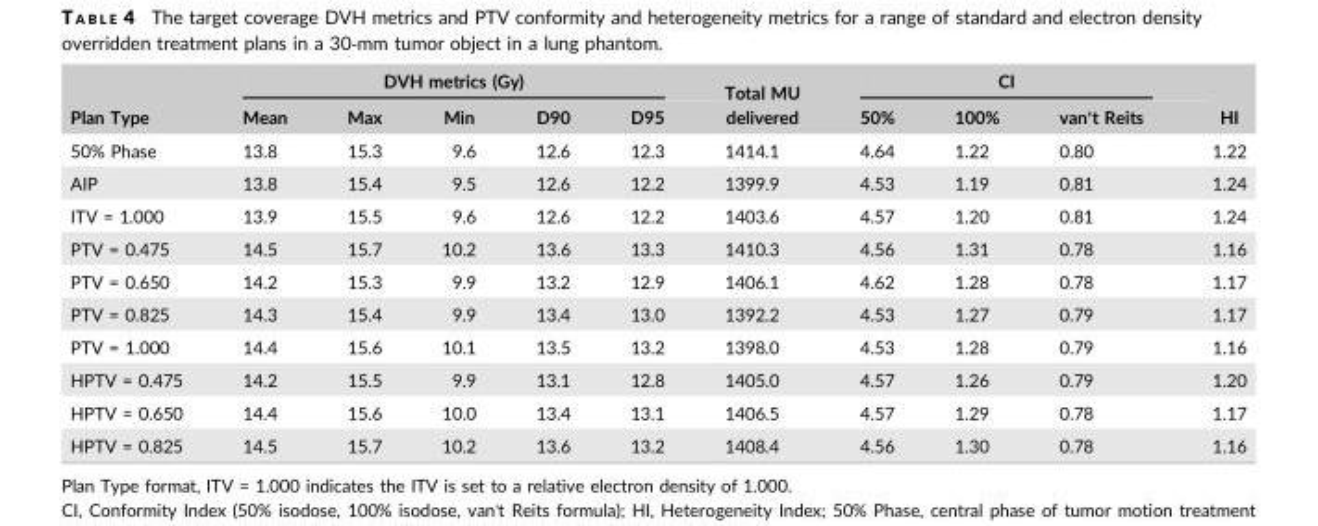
<table><thead><tr><td rowspan="2">Plan Type</td><td colspan="5">DVH metrics (Gy)</td><td rowspan="2">Total MU delivered</td><td colspan="3">CI</td><td rowspan="2">HI</td></tr><tr><td>Mean</td><td>Max</td><td>Min</td><td>D90</td><td>D95</td><td>50%</td><td>100%</td><td>van&#x27;t Reits</td></tr></thead><tbody><tr><td>50% Phase</td><td>13.8</td><td>15.3</td><td>9.6</td><td>12.6</td><td>12.3</td><td>1414.1</td><td>4.64</td><td>1.22</td><td>0.80</td><td>1.22</td></tr><tr><td>AIP</td><td>13.8</td><td>15.4</td><td>9.5</td><td>12.6</td><td>12.2</td><td>1399.9</td><td>4.53</td><td>1.19</td><td>0.81</td><td>1.24</td></tr><tr><td>ITV = 1.000</td><td>13.9</td><td>15.5</td><td>9.6</td><td>12.6</td><td>12.2</td><td>1403.6</td><td>4.57</td><td>1.20</td><td>0.81</td><td>1.24</td></tr><tr><td>PTV = 0.475</td><td>14.5</td><td>15.7</td><td>10.2</td><td>13.6</td><td>13.3</td><td>1410.3</td><td>4.56</td><td>1.31</td><td>0.78</td><td>1.16</td></tr><tr><td>PTV = 0.650</td><td>14.2</td><td>15.3</td><td>9.9</td><td>13.2</td><td>12.9</td><td>1406.1</td><td>4.62</td><td>1.28</td><td>0.78</td><td>1.17</td></tr><tr><td>PTV = 0.825</td><td>14.3</td><td>15.4</td><td>9.9</td><td>13.4</td><td>13.0</td><td>1392.2</td><td>4.53</td><td>1.27</td><td>0.79</td><td>1.17</td></tr><tr><td>PTV = 1.000</td><td>14.4</td><td>15.6</td><td>10.1</td><td>13.5</td><td>13.2</td><td>1398.0</td><td>4.53</td><td>1.28</td><td>0.79</td><td>1.16</td></tr><tr><td>HPTV = 0.475</td><td>14.2</td><td>15.5</td><td>9.9</td><td>13.1</td><td>12.8</td><td>1405.0</td><td>4.57</td><td>1.26</td><td>0.79</td><td>1.20</td></tr><tr><td>HPTV = 0.650</td><td>14.4</td><td>15.6</td><td>10.0</td><td>13.4</td><td>13.1</td><td>1406.5</td><td>4.57</td><td>1.29</td><td>0.78</td><td>1.17</td></tr><tr><td>HPTV = 0.825</td><td>14.5</td><td>15.7</td><td>10.2</td><td>13.6</td><td>13.2</td><td>1408.4</td><td>4.56</td><td>1.30</td><td>0.78</td><td>1.16</td></tr></tbody></table>